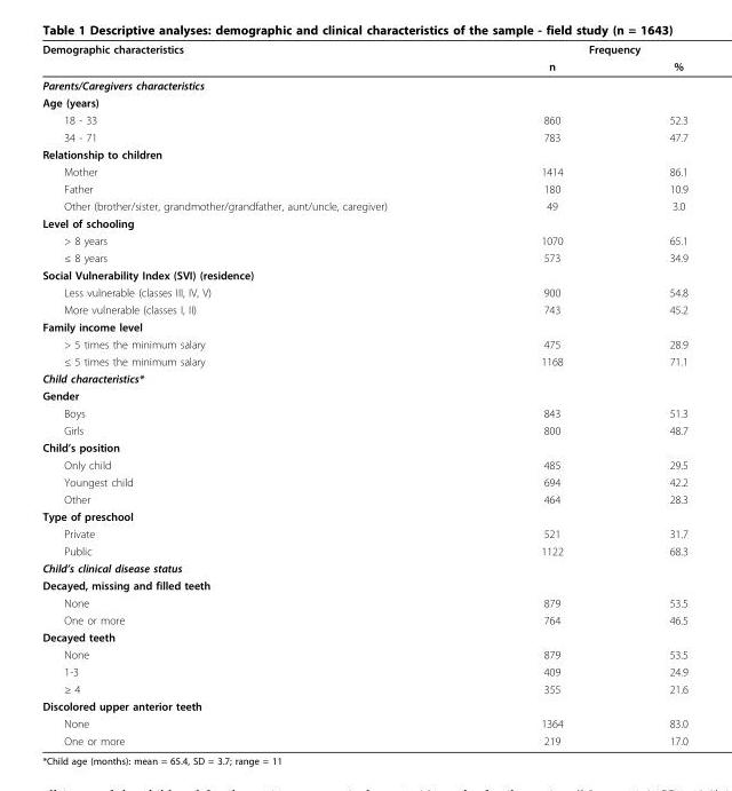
<table><thead><tr><td rowspan="2">Demographic characteristics</td><td colspan="2">Frequency</td></tr><tr><td>n</td><td>%</td></tr></thead><tbody><tr><td colspan="3">Parents/Caregivers characteristics</td></tr><tr><td colspan="3">Age (years)</td></tr><tr><td>18 - 33</td><td>860</td><td>52.3</td></tr><tr><td>34 - 71</td><td>783</td><td>47.7</td></tr><tr><td colspan="3">Relationship to children</td></tr><tr><td>Mother</td><td>1414</td><td>86.1</td></tr><tr><td>Father</td><td>180</td><td>10.9</td></tr><tr><td>Other (brother/sister, grandmother/grandfather, aunt/uncle, caregiver)</td><td>49</td><td>3.0</td></tr><tr><td colspan="3">Level of schooling</td></tr><tr><td>&gt; 8 years</td><td>1070</td><td>65.1</td></tr><tr><td>≤ 8 years</td><td>573</td><td>34.9</td></tr><tr><td colspan="3">Social Vulnerability Index (SVI) (residence)</td></tr><tr><td>Less vulnerable (classes III, IV, V)</td><td>900</td><td>54.8</td></tr><tr><td>More vulnerable (classes I, II)</td><td>743</td><td>45.2</td></tr><tr><td colspan="3">Family income level</td></tr><tr><td>&gt; 5 times the minimum salary</td><td>475</td><td>28.9</td></tr><tr><td>≤ 5 times the minimum salary</td><td>1168</td><td>71.1</td></tr><tr><td colspan="3">Child characteristics*</td></tr><tr><td colspan="3">Gender</td></tr><tr><td>Boys</td><td>843</td><td>51.3</td></tr><tr><td>Girls</td><td>800</td><td>48.7</td></tr><tr><td colspan="3">Child’s position</td></tr><tr><td>Only child</td><td>485</td><td>29.5</td></tr><tr><td>Youngest child</td><td>694</td><td>42.2</td></tr><tr><td>Other</td><td>464</td><td>28.3</td></tr><tr><td colspan="3">Type of preschool</td></tr><tr><td>Private</td><td>521</td><td>31.7</td></tr><tr><td>Public</td><td>1122</td><td>68.3</td></tr><tr><td colspan="3">Child’s clinical disease status</td></tr><tr><td colspan="3">Decayed, missing and filled teeth</td></tr><tr><td>None</td><td>879</td><td>53.5</td></tr><tr><td>One or more</td><td>764</td><td>46.5</td></tr><tr><td colspan="3">Decayed teeth</td></tr><tr><td>None</td><td>879</td><td>53.5</td></tr><tr><td>1-3</td><td>409</td><td>24.9</td></tr><tr><td>≥ 4</td><td>355</td><td>21.6</td></tr><tr><td colspan="3">Discolored upper anterior teeth</td></tr><tr><td>None</td><td>1364</td><td>83.0</td></tr><tr><td>One or more</td><td>219</td><td>17.0</td></tr></tbody></table>